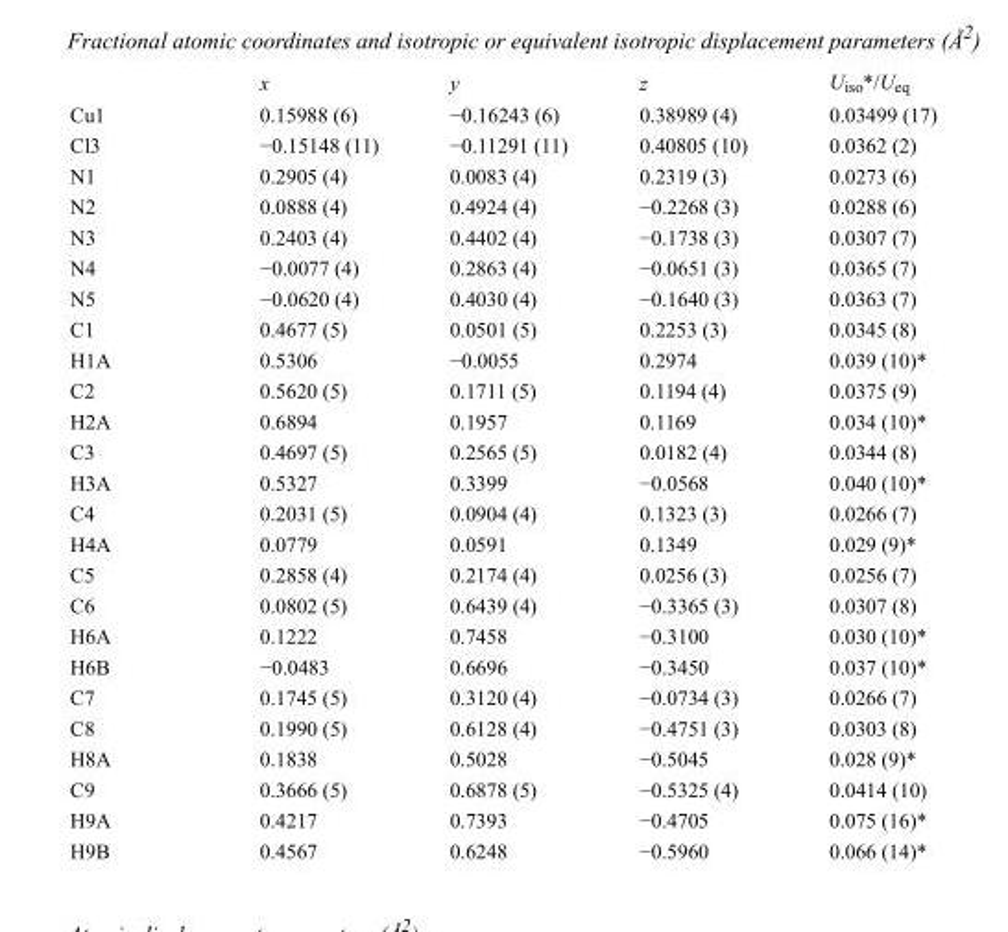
<table><thead><tr><td></td><td>x</td><td>y</td><td>z</td><td>U<sub>iso</sub>*/U<sub>eq</sub></td></tr></thead><tbody><tr><td>Cu1</td><td>0.15988 (6)</td><td>−0.16243 (6)</td><td>0.38989 (4)</td><td>0.03499 (17)</td></tr><tr><td>Cl3</td><td>−0.15148 (11)</td><td>−0.11291 (11)</td><td>0.40805 (10)</td><td>0.0362 (2)</td></tr><tr><td>N1</td><td>0.2905 (4)</td><td>0.0083 (4)</td><td>0.2319 (3)</td><td>0.0273 (6)</td></tr><tr><td>N2</td><td>0.0888 (4)</td><td>0.4924 (4)</td><td>−0.2268 (3)</td><td>0.0288 (6)</td></tr><tr><td>N3</td><td>0.2403 (4)</td><td>0.4402 (4)</td><td>−0.1738 (3)</td><td>0.0307 (7)</td></tr><tr><td>N4</td><td>−0.0077 (4)</td><td>0.2863 (4)</td><td>−0.0651 (3)</td><td>0.0365 (7)</td></tr><tr><td>N5</td><td>−0.0620 (4)</td><td>0.4030 (4)</td><td>−0.1640 (3)</td><td>0.0363 (7)</td></tr><tr><td>C1</td><td>0.4677 (5)</td><td>0.0501 (5)</td><td>0.2253 (3)</td><td>0.0345 (8)</td></tr><tr><td>H1A</td><td>0.5306</td><td>−0.0055</td><td>0.2974</td><td>0.039 (10)*</td></tr><tr><td>C2</td><td>0.5620 (5)</td><td>0.1711 (5)</td><td>0.1194 (4)</td><td>0.0375 (9)</td></tr><tr><td>H2A</td><td>0.6894</td><td>0.1957</td><td>0.1169</td><td>0.034 (10)*</td></tr><tr><td>C3</td><td>0.4697 (5)</td><td>0.2565 (5)</td><td>0.0182 (4)</td><td>0.0344 (8)</td></tr><tr><td>H3A</td><td>0.5327</td><td>0.3399</td><td>−0.0568</td><td>0.040 (10)*</td></tr><tr><td>C4</td><td>0.2031 (5)</td><td>0.0904 (4)</td><td>0.1323 (3)</td><td>0.0266 (7)</td></tr><tr><td>H4A</td><td>0.0779</td><td>0.0591</td><td>0.1349</td><td>0.029 (9)*</td></tr><tr><td>C5</td><td>0.2858 (4)</td><td>0.2174 (4)</td><td>0.0256 (3)</td><td>0.0256 (7)</td></tr><tr><td>C6</td><td>0.0802 (5)</td><td>0.6439 (4)</td><td>−0.3365 (3)</td><td>0.0307 (8)</td></tr><tr><td>H6A</td><td>0.1222</td><td>0.7458</td><td>−0.3100</td><td>0.030 (10)*</td></tr><tr><td>H6B</td><td>−0.0483</td><td>0.6696</td><td>−0.3450</td><td>0.037 (10)*</td></tr><tr><td>C7</td><td>0.1745 (5)</td><td>0.3120 (4)</td><td>−0.0734 (3)</td><td>0.0266 (7)</td></tr><tr><td>C8</td><td>0.1990 (5)</td><td>0.6128 (4)</td><td>−0.4751 (3)</td><td>0.0303 (8)</td></tr><tr><td>H8A</td><td>0.1838</td><td>0.5028</td><td>−0.5045</td><td>0.028 (9)*</td></tr><tr><td>C9</td><td>0.3666 (5)</td><td>0.6878 (5)</td><td>−0.5325 (4)</td><td>0.0414 (10)</td></tr><tr><td>H9A</td><td>0.4217</td><td>0.7393</td><td>−0.4705</td><td>0.075 (16)*</td></tr><tr><td>H9B</td><td>0.4567</td><td>0.6248</td><td>−0.5960</td><td>0.066 (14)*</td></tr></tbody></table>